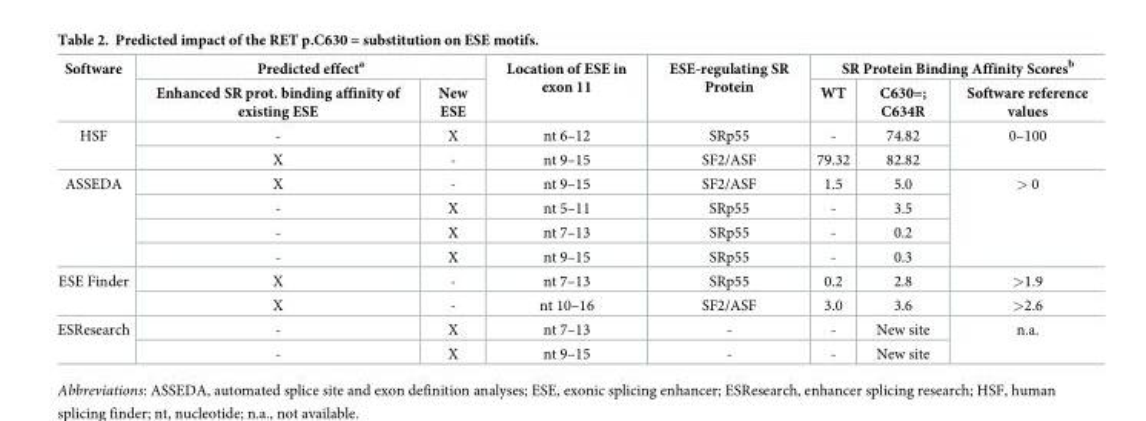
<table><thead><tr><td rowspan="2">Software</td><td colspan="2">Predicted effect<sup>a</sup></td><td rowspan="2">Location of ESE in exon 11</td><td rowspan="2">ESE-regulating SR Protein</td><td colspan="3">SR Protein Binding Affinity Scores<sup>b</sup></td></tr><tr><td>Enhanced SR prot. binding affinity of existing ESE</td><td>New ESE</td><td>WT</td><td>C630=; C634R</td><td>Software reference values</td></tr></thead><tbody><tr><td rowspan="2">HSF</td><td>-</td><td>X</td><td>nt 6–12</td><td>SRp55</td><td>-</td><td>74.82</td><td rowspan="2">0–100</td></tr><tr><td>X</td><td>-</td><td>nt 9–15</td><td>SF2/ASF</td><td>79.32</td><td>82.82</td></tr><tr><td rowspan="4">ASSEDA</td><td>X</td><td>-</td><td>nt 9–15</td><td>SF2/ASF</td><td>1.5</td><td>5.0</td><td rowspan="4">&gt; 0</td></tr><tr><td>-</td><td>X</td><td>nt 5–11</td><td>SRp55</td><td>-</td><td>3.5</td></tr><tr><td>-</td><td>X</td><td>nt 7–13</td><td>SRp55</td><td>-</td><td>0.2</td></tr><tr><td>-</td><td>X</td><td>nt 9–15</td><td>SRp55</td><td>-</td><td>0.3</td></tr><tr><td rowspan="2">ESE Finder</td><td>X</td><td>-</td><td>nt 7–13</td><td>SRp55</td><td>0.2</td><td>2.8</td><td>&gt;1.9</td></tr><tr><td>X</td><td>-</td><td>nt 10–16</td><td>SF2/ASF</td><td>3.0</td><td>3.6</td><td>&gt;2.6</td></tr><tr><td rowspan="2">ESResearch</td><td>-</td><td>X</td><td>nt 7–13</td><td>-</td><td>-</td><td>New site</td><td rowspan="2">n.a.</td></tr><tr><td>-</td><td>X</td><td>nt 9–15</td><td>-</td><td>-</td><td>New site</td></tr></tbody></table>